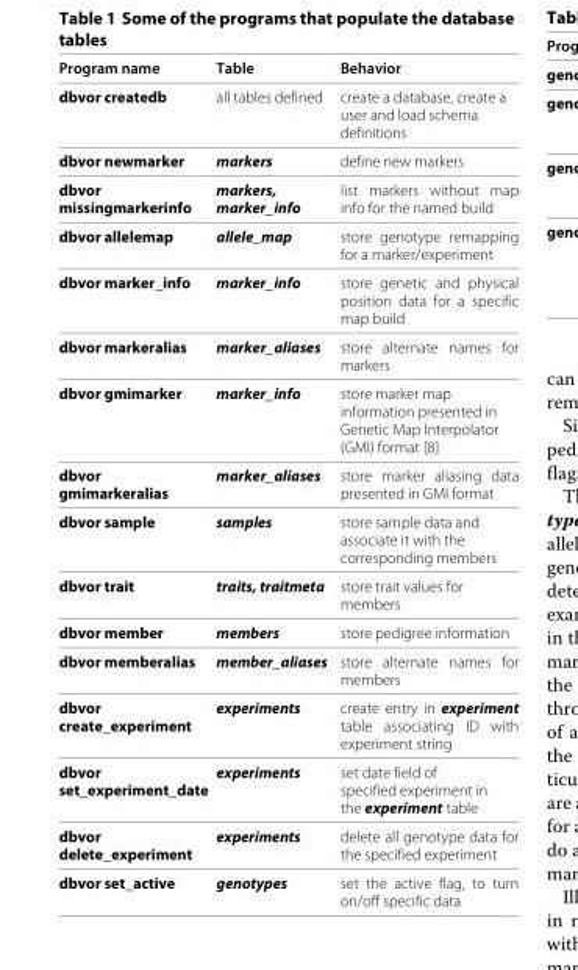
<table><thead><tr><td>Program name</td><td>Table</td><td>Behavior</td></tr></thead><tbody><tr><td>dbvor createdb</td><td>all tables defined</td><td>create a database, create a user and load schema definitions</td></tr><tr><td>dbvor newmarker</td><td>markers</td><td>define new markers</td></tr><tr><td>dbvor missingmarkerinfo</td><td>markers, marker_info</td><td>list markers without map info for the named build</td></tr><tr><td>dbvor allelemap</td><td>allele_map</td><td>store genotype remapping for a marker/experiment</td></tr><tr><td>dbvor marker_info</td><td>marker_info</td><td>store genetic and physical position data for a specific map build</td></tr><tr><td>dbvor markeralias</td><td>marker_aliases</td><td>store alternate names for markers</td></tr><tr><td>dbvor gmimarker</td><td>marker_info</td><td>store marker map information presented in Genetic Map Interpolator (GMI) format [8]</td></tr><tr><td>dbvor gmimarkeralias</td><td>marker_aliases</td><td>store marker aliasing data presented in GMI format</td></tr><tr><td>dbvor sample</td><td>samples</td><td>store sample data and associate it with the corresponding members</td></tr><tr><td>dbvor trait</td><td>traits, traitmeta</td><td>store trait values for members</td></tr><tr><td>dbvor member</td><td>members</td><td>store pedigree information</td></tr><tr><td>dbvor memberalias</td><td>member_aliases</td><td>store alternate names for members</td></tr><tr><td>dbvor create_experiment</td><td>experiments</td><td>create entry in experiment table associating ID with experiment string</td></tr><tr><td>dbvor set_experiment_date</td><td>experiments</td><td>set date field of specified experiment in the experiment table</td></tr><tr><td>dbvor delete_experiment</td><td>experiments</td><td>delete all genotype data for the specified experiment</td></tr><tr><td>dbvor set_active</td><td>genotypes</td><td>set the active flag, to turn on/off specific data</td></tr></tbody></table>